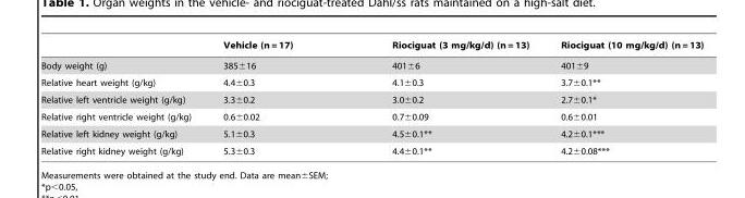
<table><thead><tr><td></td><td>Vehicle (n = 17)</td><td>Riociguat (3 mg/kg/d) (n = 13)</td><td>Riociguat (10 mg/kg/d) (n = 13)</td></tr></thead><tbody><tr><td>Body weight (g)</td><td>385±16</td><td>401±6</td><td>401±9</td></tr><tr><td>Relative heart weight (g/kg)</td><td>4.4±0.3</td><td>4.1±0.3</td><td>3.7±0.1**</td></tr><tr><td>Relative left ventricle weight (g/kg)</td><td>3.3±0.2</td><td>3.0±0.2</td><td>2.7±0.1*</td></tr><tr><td>Relative right ventricle weight (g/kg)</td><td>0.6±0.02</td><td>0.7±0.09</td><td>0.6±0.01</td></tr><tr><td>Relative left kidney weight (g/kg)</td><td>5.1±0.3</td><td>4.5±0.1**</td><td>4.2±0.1***</td></tr><tr><td>Relative right kidney weight (g/kg)</td><td>5.3±0.3</td><td>4.4±0.1**</td><td>4.2±0.08***</td></tr></tbody></table>